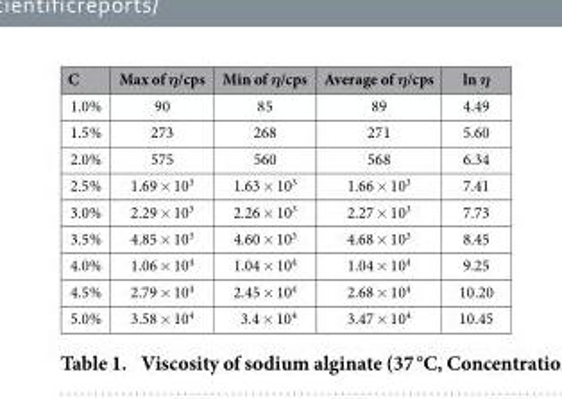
<table><thead><tr><td>C</td><td>Max of η/cps</td><td>Min of η/cps</td><td>Average of η/cps</td><td>ln η</td></tr></thead><tbody><tr><td>1.0%</td><td>90</td><td>85</td><td>89</td><td>4.49</td></tr><tr><td>1.5%</td><td>273</td><td>268</td><td>271</td><td>5.60</td></tr><tr><td>2.0%</td><td>575</td><td>560</td><td>568</td><td>6.34</td></tr><tr><td>2.5%</td><td>1.69 × 10<sup>3</sup></td><td>1.63 × 10<sup>3</sup></td><td>1.66 × 10<sup>3</sup></td><td>7.41</td></tr><tr><td>3.0%</td><td>2.29 × 10<sup>3</sup></td><td>2.26 × 10<sup>3</sup></td><td>2.27 × 10<sup>3</sup></td><td>7.73</td></tr><tr><td>3.5%</td><td>4.85 × 10<sup>3</sup></td><td>4.60 × 10<sup>3</sup></td><td>4.68 × 10<sup>3</sup></td><td>8.45</td></tr><tr><td>4.0%</td><td>1.06 × 10<sup>4</sup></td><td>1.04 × 10<sup>4</sup></td><td>1.04 × 10<sup>4</sup></td><td>9.25</td></tr><tr><td>4.5%</td><td>2.79 × 10<sup>4</sup></td><td>2.45 × 10<sup>4</sup></td><td>2.68 × 10<sup>4</sup></td><td>10.20</td></tr><tr><td>5.0%</td><td>3.58 × 10<sup>4</sup></td><td>3.4 × 10<sup>4</sup></td><td>3.47 × 10<sup>4</sup></td><td>10.45</td></tr></tbody></table>